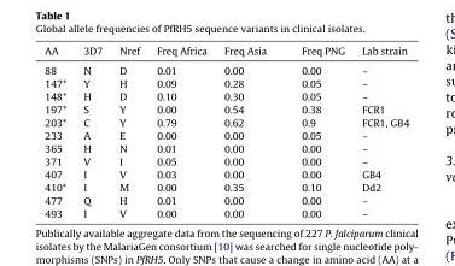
<table><thead><tr><td>AA</td><td>3D7</td><td>Nref</td><td>Freq Africa</td><td>Freq Asia</td><td>Freq PNG</td><td>Lab strain</td></tr></thead><tbody><tr><td>88</td><td>N</td><td>D</td><td>0.01</td><td>0.00</td><td>0.00</td><td>–</td></tr><tr><td>147*</td><td>Y</td><td>H</td><td>0.09</td><td>0.28</td><td>0.05</td><td>–</td></tr><tr><td>148*</td><td>H</td><td>D</td><td>0.10</td><td>0.30</td><td>0.05</td><td>–</td></tr><tr><td>197*</td><td>S</td><td>Y</td><td>0.00</td><td>0.54</td><td>0.38</td><td>FCR1</td></tr><tr><td>203*</td><td>C</td><td>Y</td><td>0.79</td><td>0.62</td><td>0.9</td><td>FCR1, GB4</td></tr><tr><td>233</td><td>A</td><td>E</td><td>0.00</td><td>0.00</td><td>0.05</td><td>–</td></tr><tr><td>365</td><td>H</td><td>N</td><td>0.01</td><td>0.00</td><td>0.00</td><td>–</td></tr><tr><td>371</td><td>V</td><td>I</td><td>0.05</td><td>0.00</td><td>0.00</td><td>–</td></tr><tr><td>407</td><td>I</td><td>V</td><td>0.03</td><td>0.00</td><td>0.00</td><td>GB4</td></tr><tr><td>410*</td><td>I</td><td>M</td><td>0.00</td><td>0.35</td><td>0.10</td><td>Dd2</td></tr><tr><td>477</td><td>Q</td><td>H</td><td>0.01</td><td>0.00</td><td>0.00</td><td>–</td></tr><tr><td>493</td><td>I</td><td>V</td><td>0.00</td><td>0.00</td><td>0.00</td><td>–</td></tr></tbody></table>